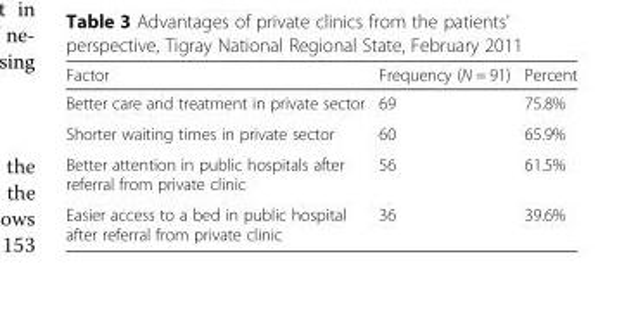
<table><thead><tr><td>Factor</td><td>Frequency (N = 91)</td><td>Percent</td></tr></thead><tbody><tr><td>Better care and treatment in private sector</td><td>69</td><td>75.8%</td></tr><tr><td>Shorter waiting times in private sector</td><td>60</td><td>65.9%</td></tr><tr><td>Better attention in public hospitals after referral from private clinic</td><td>56</td><td>61.5%</td></tr><tr><td>Easier access to a bed in public hospital after referral from private clinic</td><td>36</td><td>39.6%</td></tr></tbody></table>